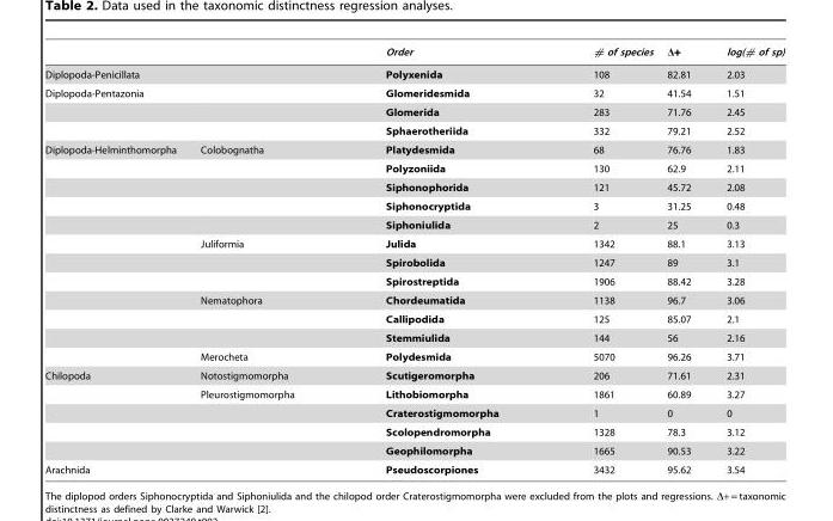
<table><thead><tr><td></td><td></td><td>Order</td><td># of species</td><td>Δ+</td><td>log(# of sp)</td></tr></thead><tbody><tr><td>Diplopoda-Penicillata</td><td></td><td>Polyxenida</td><td>108</td><td>82.81</td><td>2.03</td></tr><tr><td rowspan="3">Diplopoda-Pentazonia</td><td></td><td>Glomeridesmida</td><td>32</td><td>41.54</td><td>1.51</td></tr><tr><td></td><td>Glomerida</td><td>283</td><td>71.76</td><td>2.45</td></tr><tr><td></td><td>Sphaerotheriida</td><td>332</td><td>79.21</td><td>2.52</td></tr><tr><td rowspan="12">Diplopoda-Helminthomorpha</td><td>Colobognatha</td><td>Platydesmida</td><td>68</td><td>76.76</td><td>1.83</td></tr><tr><td></td><td>Polyzoniida</td><td>130</td><td>62.9</td><td>2.11</td></tr><tr><td></td><td>Siphonophorida</td><td>121</td><td>45.72</td><td>2.08</td></tr><tr><td></td><td>Siphonocryptida</td><td>3</td><td>31.25</td><td>0.48</td></tr><tr><td></td><td>Siphoniulida</td><td>2</td><td>25</td><td>0.3</td></tr><tr><td>Juliformia</td><td>Julida</td><td>1342</td><td>88.1</td><td>3.13</td></tr><tr><td></td><td>Spirobolida</td><td>1247</td><td>89</td><td>3.1</td></tr><tr><td></td><td>Spirostreptida</td><td>1906</td><td>88.42</td><td>3.28</td></tr><tr><td>Nematophora</td><td>Chordeumatida</td><td>1138</td><td>96.7</td><td>3.06</td></tr><tr><td></td><td>Callipodida</td><td>125</td><td>85.07</td><td>2.1</td></tr><tr><td></td><td>Stemmiulida</td><td>144</td><td>56</td><td>2.16</td></tr><tr><td>Merocheta</td><td>Polydesmida</td><td>5070</td><td>96.26</td><td>3.71</td></tr><tr><td rowspan="5">Chilopoda</td><td>Notostigmomorpha</td><td>Scutigeromorpha</td><td>206</td><td>71.61</td><td>2.31</td></tr><tr><td>Pleurostigmomorpha</td><td>Lithobiomorpha</td><td>1861</td><td>60.89</td><td>3.27</td></tr><tr><td></td><td>Craterostigmomorpha</td><td>1</td><td>0</td><td>0</td></tr><tr><td></td><td>Scolopendromorpha</td><td>1328</td><td>78.3</td><td>3.12</td></tr><tr><td></td><td>Geophilomorpha</td><td>1665</td><td>90.53</td><td>3.22</td></tr><tr><td>Arachnida</td><td></td><td>Pseudoscorpiones</td><td>3432</td><td>95.62</td><td>3.54</td></tr></tbody></table>